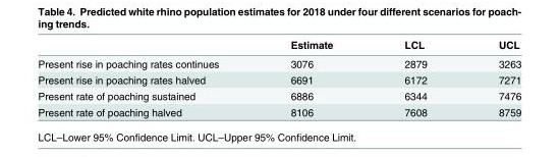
<table><thead><tr><td></td><td>Estimate</td><td>LCL</td><td>UCL</td></tr></thead><tbody><tr><td>Present rise in poaching rates continues</td><td>3076</td><td>2879</td><td>3263</td></tr><tr><td>Present rise in poaching rates halved</td><td>6691</td><td>6172</td><td>7271</td></tr><tr><td>Present rate of poaching sustained</td><td>6886</td><td>6344</td><td>7476</td></tr><tr><td>Present rate of poaching halved</td><td>8106</td><td>7608</td><td>8759</td></tr></tbody></table>